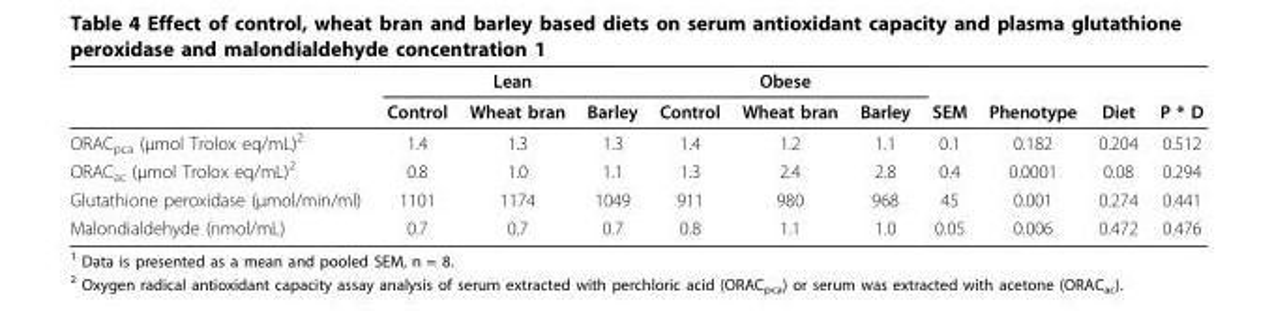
<table><thead><tr><td rowspan="2"></td><td colspan="3">Lean</td><td colspan="3">Obese</td><td rowspan="2">SEM</td><td rowspan="2">Phenotype</td><td rowspan="2">Diet</td><td rowspan="2">P * D</td></tr><tr><td>Control</td><td>Wheat bran</td><td>Barley</td><td>Control</td><td>Wheat bran</td><td>Barley</td></tr></thead><tbody><tr><td>ORAC<sub>pca</sub> (μmol Trolox eq/mL)<sup>2</sup></td><td>1.4</td><td>1.3</td><td>1.3</td><td>1.4</td><td>1.2</td><td>1.1</td><td>0.1</td><td>0.182</td><td>0.204</td><td>0.512</td></tr><tr><td>ORAC<sub>ac</sub> (μmol Trolox eq/mL)<sup>2</sup></td><td>0.8</td><td>1.0</td><td>1.1</td><td>1.3</td><td>2.4</td><td>2.8</td><td>0.4</td><td>0.0001</td><td>0.08</td><td>0.294</td></tr><tr><td>Glutathione peroxidase (μmol/min/ml)</td><td>1101</td><td>1174</td><td>1049</td><td>911</td><td>980</td><td>968</td><td>45</td><td>0.001</td><td>0.274</td><td>0.441</td></tr><tr><td>Malondialdehyde (nmol/mL)</td><td>0.7</td><td>0.7</td><td>0.7</td><td>0.8</td><td>1.1</td><td>1.0</td><td>0.05</td><td>0.006</td><td>0.472</td><td>0.476</td></tr></tbody></table>